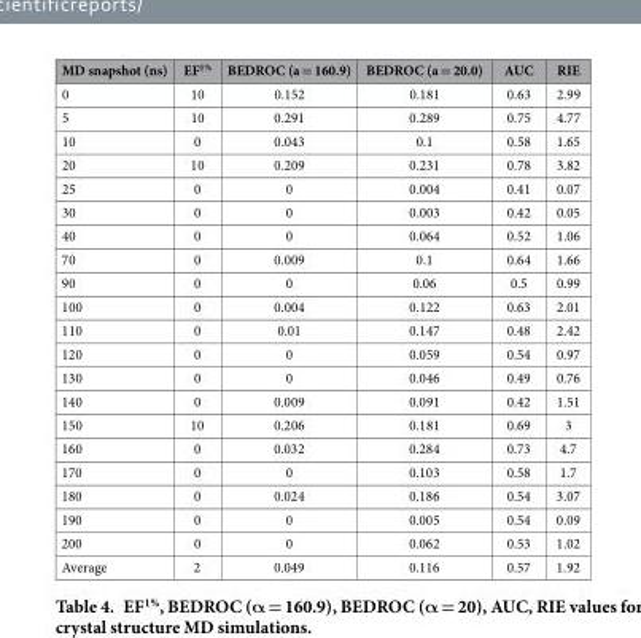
<table><thead><tr><td>MD snapshot (ns)</td><td>EF<sup>1%</sup></td><td>BEDROC (a = 160.9)</td><td>BEDROC (a = 20.0)</td><td>AUC</td><td>RIE</td></tr></thead><tbody><tr><td>0</td><td>10</td><td>0.152</td><td>0.181</td><td>0.63</td><td>2.99</td></tr><tr><td>5</td><td>10</td><td>0.291</td><td>0.289</td><td>0.75</td><td>4.77</td></tr><tr><td>10</td><td>0</td><td>0.043</td><td>0.1</td><td>0.58</td><td>1.65</td></tr><tr><td>20</td><td>10</td><td>0.209</td><td>0.231</td><td>0.78</td><td>3.82</td></tr><tr><td>25</td><td>0</td><td>0</td><td>0.004</td><td>0.41</td><td>0.07</td></tr><tr><td>30</td><td>0</td><td>0</td><td>0.003</td><td>0.42</td><td>0.05</td></tr><tr><td>40</td><td>0</td><td>0</td><td>0.064</td><td>0.52</td><td>1.06</td></tr><tr><td>70</td><td>0</td><td>0.009</td><td>0.1</td><td>0.64</td><td>1.66</td></tr><tr><td>90</td><td>0</td><td>0</td><td>0.06</td><td>0.5</td><td>0.99</td></tr><tr><td>100</td><td>0</td><td>0.004</td><td>0.122</td><td>0.63</td><td>2.01</td></tr><tr><td>110</td><td>0</td><td>0.01</td><td>0.147</td><td>0.48</td><td>2.42</td></tr><tr><td>120</td><td>0</td><td>0</td><td>0.059</td><td>0.54</td><td>0.97</td></tr><tr><td>130</td><td>0</td><td>0</td><td>0.046</td><td>0.49</td><td>0.76</td></tr><tr><td>140</td><td>0</td><td>0.009</td><td>0.091</td><td>0.42</td><td>1.51</td></tr><tr><td>150</td><td>10</td><td>0.206</td><td>0.181</td><td>0.69</td><td>3</td></tr><tr><td>160</td><td>0</td><td>0.032</td><td>0.284</td><td>0.73</td><td>4.7</td></tr><tr><td>170</td><td>0</td><td>0</td><td>0.103</td><td>0.58</td><td>1.7</td></tr><tr><td>180</td><td>0</td><td>0.024</td><td>0.186</td><td>0.54</td><td>3.07</td></tr><tr><td>190</td><td>0</td><td>0</td><td>0.005</td><td>0.54</td><td>0.09</td></tr><tr><td>200</td><td>0</td><td>0</td><td>0.062</td><td>0.53</td><td>1.02</td></tr><tr><td>Average</td><td>2</td><td>0.049</td><td>0.116</td><td>0.57</td><td>1.92</td></tr></tbody></table>